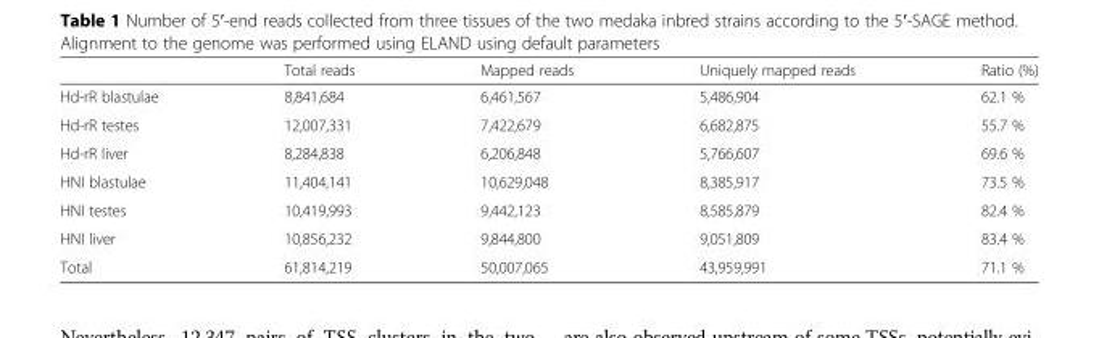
<table><thead><tr><td></td><td>Total reads</td><td>Mapped reads</td><td>Uniquely mapped reads</td><td>Ratio (%)</td></tr></thead><tbody><tr><td>Hd-rR blastulae</td><td>8,841,684</td><td>6,461,567</td><td>5,486,904</td><td>62.1 %</td></tr><tr><td>Hd-rR testes</td><td>12,007,331</td><td>7,422,679</td><td>6,682,875</td><td>55.7 %</td></tr><tr><td>Hd-rR liver</td><td>8,284,838</td><td>6,206,848</td><td>5,766,607</td><td>69.6 %</td></tr><tr><td>HNI blastulae</td><td>11,404,141</td><td>10,629,048</td><td>8,385,917</td><td>73.5 %</td></tr><tr><td>HNI testes</td><td>10,419,993</td><td>9,442,123</td><td>8,585,879</td><td>82.4 %</td></tr><tr><td>HNI liver</td><td>10,856,232</td><td>9,844,800</td><td>9,051,809</td><td>83.4 %</td></tr><tr><td>Total</td><td>61,814,219</td><td>50,007,065</td><td>43,959,991</td><td>71.1 %</td></tr></tbody></table>